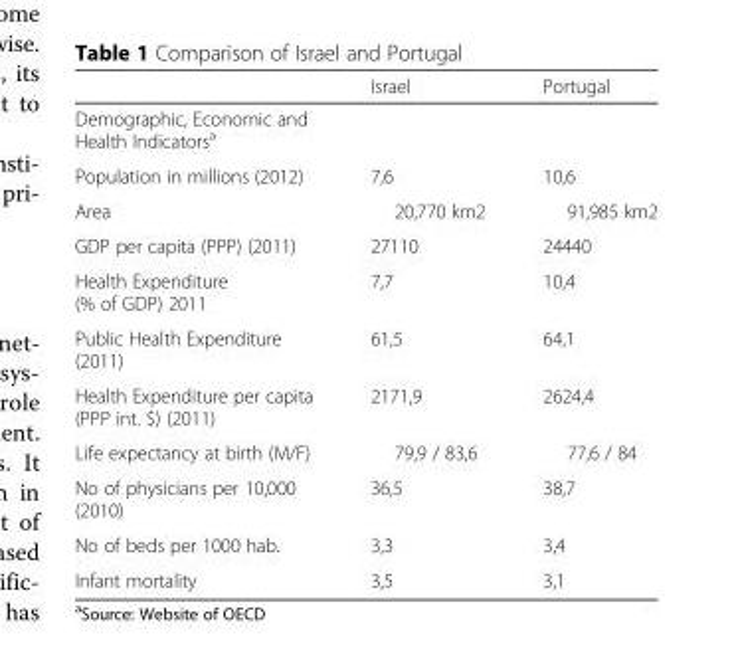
<table><thead><tr><td></td><td>Israel</td><td>Portugal</td></tr></thead><tbody><tr><td colspan="3">Demographic, Economic and Health Indicators<sup>a</sup></td></tr><tr><td>Population in millions (2012)</td><td>7,6</td><td>10,6</td></tr><tr><td>Area</td><td>20,770 km2</td><td>91,985 km2</td></tr><tr><td>GDP per capita (PPP) (2011)</td><td>27110</td><td>24440</td></tr><tr><td>Health Expenditure (% of GDP) 2011</td><td>7,7</td><td>10,4</td></tr><tr><td>Public Health Expenditure (2011)</td><td>61,5</td><td>64,1</td></tr><tr><td>Health Expenditure per capita (PPP int. $) (2011)</td><td>2171,9</td><td>2624,4</td></tr><tr><td>Life expectancy at birth (M/F)</td><td>79,9 / 83,6</td><td>77,6 / 84</td></tr><tr><td>No of physicians per 10,000 (2010)</td><td>36,5</td><td>38,7</td></tr><tr><td>No of beds per 1000 hab.</td><td>3,3</td><td>3,4</td></tr><tr><td>Infant mortality</td><td>3,5</td><td>3,1</td></tr></tbody></table>